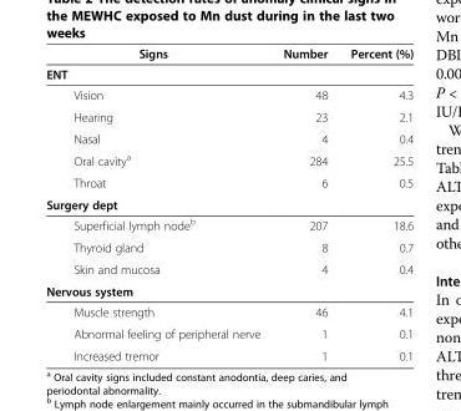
<table><thead><tr><td rowspan="2">Signs ENT</td><td rowspan="2">Number</td><td rowspan="2">Percent (%)</td></tr><tr></tr></thead><tbody><tr><td>Vision</td><td>48</td><td>4.3</td></tr><tr><td>Hearing</td><td>23</td><td>2.1</td></tr><tr><td>Nasal</td><td>4</td><td>0.4</td></tr><tr><td>Oral cavity<sup>a</sup></td><td>284</td><td>25.5</td></tr><tr><td>Throat</td><td>6</td><td>0.5</td></tr><tr><td colspan="3">Surgery dept</td></tr><tr><td>Superficial lymph node<sup>b</sup></td><td>207</td><td>18.6</td></tr><tr><td>Thyroid gland</td><td>8</td><td>0.7</td></tr><tr><td>Skin and mucosa</td><td>4</td><td>0.4</td></tr><tr><td colspan="3">Nervous system</td></tr><tr><td>Muscle strength</td><td>46</td><td>4.1</td></tr><tr><td>Abnormal feeling of peripheral nerve</td><td>1</td><td>0.1</td></tr><tr><td>Increased tremor</td><td>1</td><td>0.1</td></tr></tbody></table>